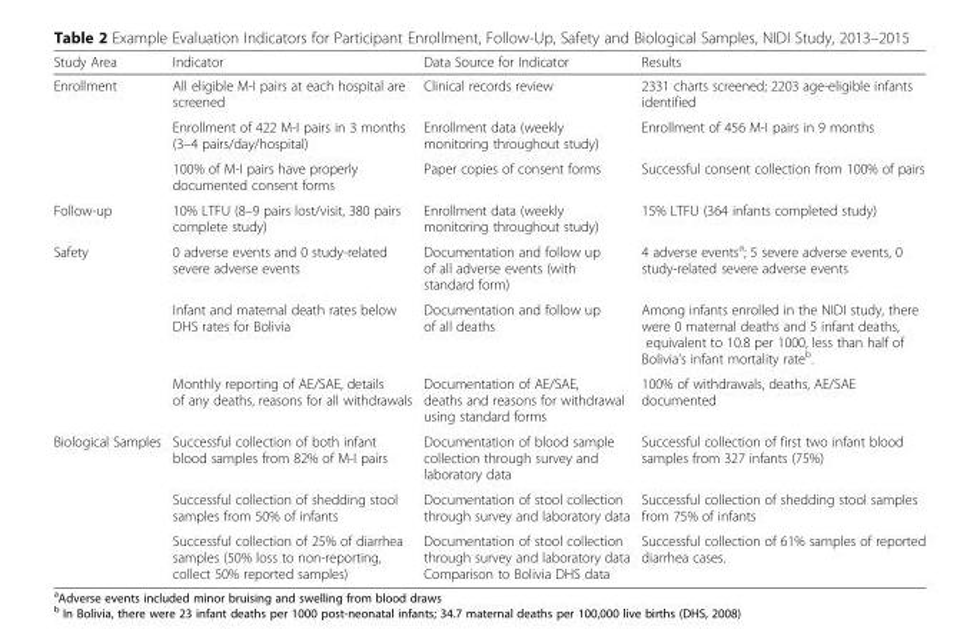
<table><thead><tr><td>Study Area</td><td>Indicator</td><td>Data Source for Indicator</td><td>Results</td></tr></thead><tbody><tr><td rowspan="3">Enrollment</td><td>All eligible M-I pairs at each hospital are screened</td><td>Clinical records review</td><td>2331 charts screened; 2203 age-eligible infants identified</td></tr><tr><td>Enrollment of 422 M-I pairs in 3 months (3–4 pairs/day/hospital)</td><td>Enrollment data (weekly monitoring throughout study)</td><td>Enrollment of 456 M-I pairs in 9 months</td></tr><tr><td>100% of M-I pairs have properly documented consent forms</td><td>Paper copies of consent forms</td><td>Successful consent collection from 100% of pairs</td></tr><tr><td>Follow-up</td><td>10% LTFU (8–9 pairs lost/visit, 380 pairs complete study)</td><td>Enrollment data (weekly monitoring throughout study)</td><td>15% LTFU (364 infants completed study)</td></tr><tr><td rowspan="3">Safety</td><td>0 adverse events and 0 study-related severe adverse events</td><td>Documentation and follow up of all adverse events (with standard form)</td><td>4 adverse events<sup>a</sup>; 5 severe adverse events, 0 study-related severe adverse events</td></tr><tr><td>Infant and maternal death rates below DHS rates for Bolivia</td><td>Documentation and follow up of all deaths</td><td>Among infants enrolled in the NIDI study, there were 0 maternal deaths and 5 infant deaths, equivalent to 10.8 per 1000, less than half of Bolivia’s infant mortality rate<sup>b</sup>.</td></tr><tr><td>Monthly reporting of AE/SAE, details of any deaths, reasons for all withdrawals</td><td>Documentation of AE/SAE, deaths and reasons for withdrawal using standard forms</td><td>100% of withdrawals, deaths, AE/SAE documented</td></tr><tr><td rowspan="3">Biological Samples</td><td>Successful collection of both infant blood samples from 82% of M-I pairs</td><td>Documentation of blood sample collection through survey and laboratory data</td><td>Successful collection of first two infant blood samples from 327 infants (75%)</td></tr><tr><td>Successful collection of shedding stool samples from 50% of infants</td><td>Documentation of stool collection through survey and laboratory data</td><td>Successful collection of shedding stool samples from 75% of infants</td></tr><tr><td>Successful collection of 25% of diarrhea samples (50% loss to non-reporting, collect 50% reported samples)</td><td>Documentation of stool collection through survey and laboratory data Comparison to Bolivia DHS data</td><td>Successful collection of 61% samples of reported diarrhea cases.</td></tr></tbody></table>